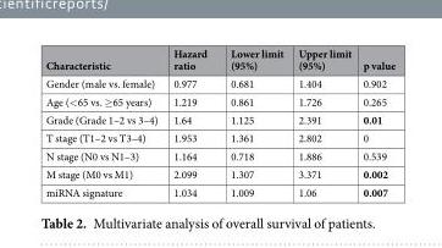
<table><thead><tr><td>Characteristic</td><td>Hazard ratio</td><td>Lower limit (95%)</td><td>Upper limit (95%)</td><td>p value</td></tr></thead><tbody><tr><td>Gender (male vs. female)</td><td>0.977</td><td>0.681</td><td>1.404</td><td>0.902</td></tr><tr><td>Age (&lt;65 vs. ≥65 years)</td><td>1.219</td><td>0.861</td><td>1.726</td><td>0.265</td></tr><tr><td>Grade (Grade 1–2 vs 3–4)</td><td>1.64</td><td>1.125</td><td>2.391</td><td>0.01</td></tr><tr><td>T stage (T1–2 vs T3–4)</td><td>1.953</td><td>1.361</td><td>2.802</td><td>0</td></tr><tr><td>N stage (N0 vs N1–3)</td><td>1.164</td><td>0.718</td><td>1.886</td><td>0.539</td></tr><tr><td>M stage (M0 vs M1)</td><td>2.099</td><td>1.307</td><td>3.371</td><td>0.002</td></tr><tr><td>miRNA signature</td><td>1.034</td><td>1.009</td><td>1.06</td><td>0.007</td></tr></tbody></table>